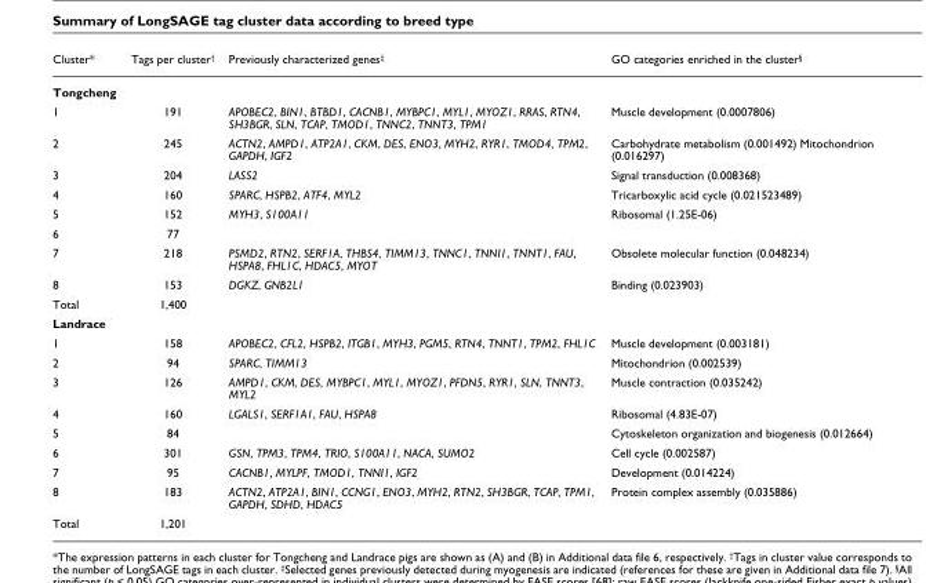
<table><thead><tr><td>Cluster*</td><td>Tags per cluster<sup>†</sup></td><td>Previously characterized genes<sup>‡</sup></td><td>GO categories enriched in the cluster<sup>§</sup></td></tr></thead><tbody><tr><td colspan="4">Tongcheng</td></tr><tr><td>1</td><td>191</td><td>APOBEC2, BIN1, BTBD1, CACNB1, MYBPC1, MYL1, MYOZ1, RRAS, RTN4, SH3BGR, SLN, TCAP, TMOD1, TNNC2, TNNT3, TPM1</td><td>Muscle development (0.0007806)</td></tr><tr><td>2</td><td>245</td><td>ACTN2, AMPD1, ATP2A1, CKM, DES, ENO3, MYH2, RYR1, TMOD4, TPM2, GAPDH, IGF2</td><td>Carbohydrate metabolism (0.001492) Mitochondrion (0.016297)</td></tr><tr><td>3</td><td>204</td><td>LASS2</td><td>Signal transduction (0.008368)</td></tr><tr><td>4</td><td>160</td><td>SPARC, HSPB2, ATF4, MYL2</td><td>Tricarboxylic acid cycle (0.021523489)</td></tr><tr><td>5</td><td>152</td><td>MYH3, S100A11</td><td>Ribosomal (1.25E-06)</td></tr><tr><td>6</td><td>77</td><td></td><td></td></tr><tr><td>7</td><td>218</td><td>PSMD2, RTN2, SERF1A, THBS4, TIMM13, TNNC1, TNNI1, TNNT1, FAU, HSPA8, FHL1C, HDAC5, MYOT</td><td>Obsolete molecular function (0.048234)</td></tr><tr><td>8</td><td>153</td><td>DGKZ, GNB2L1</td><td>Binding (0.023903)</td></tr><tr><td>Total</td><td>1,400</td><td></td><td></td></tr><tr><td colspan="4">Landrace</td></tr><tr><td>1</td><td>158</td><td>APOBEC2, CFL2, HSPB2, ITGB1, MYH3, PGM5, RTN4, TNNT1, TPM2, FHL1C</td><td>Muscle development (0.003181)</td></tr><tr><td>2</td><td>94</td><td>SPARC, TIMM13</td><td>Mitochondrion (0.002539)</td></tr><tr><td>3</td><td>126</td><td>AMPD1, CKM, DES, MYBPC1, MYL1, MYOZ1, PFDN5, RYR1, SLN, TNNT3, MYL2</td><td>Muscle contraction (0.035242)</td></tr><tr><td>4</td><td>160</td><td>LGALS1, SERF1A1, FAU, HSPA8</td><td>Ribosomal (4.83E-07)</td></tr><tr><td>5</td><td>84</td><td></td><td>Cytoskeleton organization and biogenesis (0.012664)</td></tr><tr><td>6</td><td>301</td><td>GSN, TPM3, TPM4, TRIO, S100A11, NACA, SUMO2</td><td>Cell cycle (0.002587)</td></tr><tr><td>7</td><td>95</td><td>CACNB1, MYLPF, TMOD1, TNNI1, IGF2</td><td>Development (0.014224)</td></tr><tr><td>8</td><td>183</td><td>ACTN2, ATP2A1, BIN1, CCNG1, ENO3, MYH2, RTN2, SH3BGR, TCAP, TPM1, GAPDH, SDHD, HDAC5</td><td>Protein complex assembly (0.035886)</td></tr><tr><td>Total</td><td>1,201</td><td></td><td></td></tr></tbody></table>